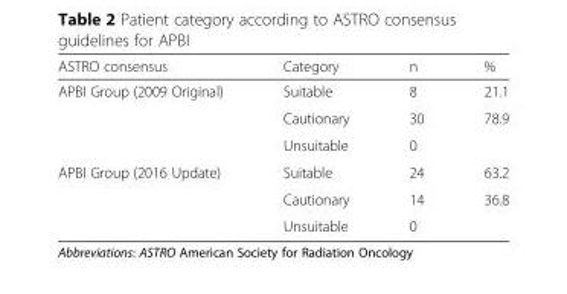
<table><thead><tr><td>ASTRO consensus</td><td>Category</td><td>n</td><td>%</td></tr></thead><tbody><tr><td rowspan="3">APBI Group (2009 Original)</td><td>Suitable</td><td>8</td><td>21.1</td></tr><tr><td>Cautionary</td><td>30</td><td>78.9</td></tr><tr><td>Unsuitable</td><td>0</td><td></td></tr><tr><td rowspan="3">APBI Group (2016 Update)</td><td>Suitable</td><td>24</td><td>63.2</td></tr><tr><td>Cautionary</td><td>14</td><td>36.8</td></tr><tr><td>Unsuitable</td><td>0</td><td></td></tr></tbody></table>